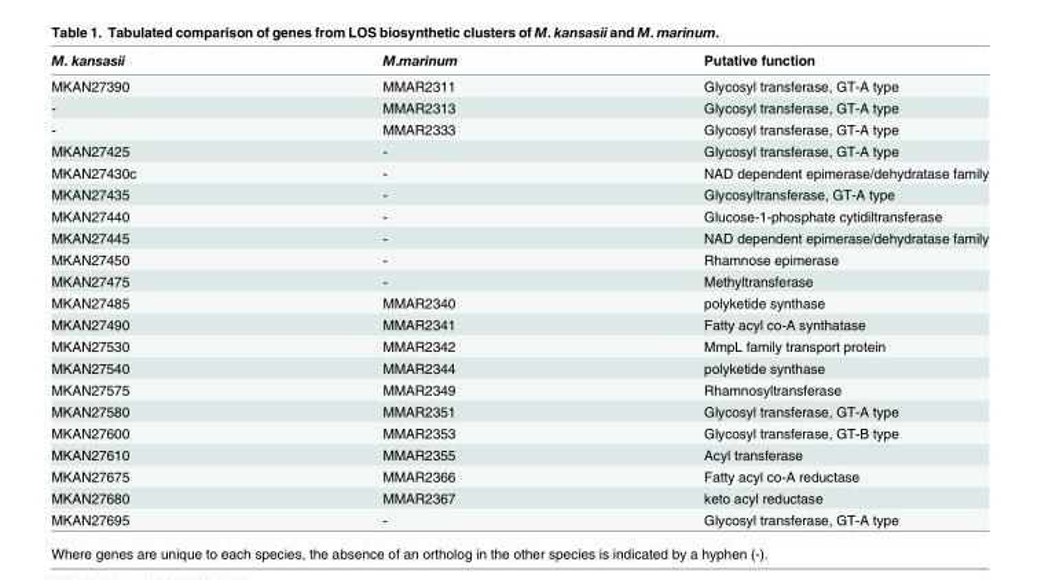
<table><thead><tr><td>M. kansasii</td><td>M.marinum</td><td>Putative function</td></tr></thead><tbody><tr><td>MKAN27390</td><td>MMAR2311</td><td>Glycosyl transferase, GT-A type</td></tr><tr><td>-</td><td>MMAR2313</td><td>Glycosyl transferase, GT-A type</td></tr><tr><td>-</td><td>MMAR2333</td><td>Glycosyl transferase, GT-A type</td></tr><tr><td>MKAN27425</td><td>-</td><td>Glycosyl transferase, GT-A type</td></tr><tr><td>MKAN27430c</td><td>-</td><td>NAD dependent epimerase/dehydratase family</td></tr><tr><td>MKAN27435</td><td>-</td><td>Glycosyltransferase, GT-A type</td></tr><tr><td>MKAN27440</td><td>-</td><td>Glucose-1-phosphate cytidiltransferase</td></tr><tr><td>MKAN27445</td><td>-</td><td>NAD dependent epimerase/dehydratase family</td></tr><tr><td>MKAN27450</td><td>-</td><td>Rhamnose epimerase</td></tr><tr><td>MKAN27475</td><td>-</td><td>Methyltransferase</td></tr><tr><td>MKAN27485</td><td>MMAR2340</td><td>polyketide synthase</td></tr><tr><td>MKAN27490</td><td>MMAR2341</td><td>Fatty acyl co-A synthatase</td></tr><tr><td>MKAN27530</td><td>MMAR2342</td><td>MmpL family transport protein</td></tr><tr><td>MKAN27540</td><td>MMAR2344</td><td>polyketide synthase</td></tr><tr><td>MKAN27575</td><td>MMAR2349</td><td>Rhamnosyltransferase</td></tr><tr><td>MKAN27580</td><td>MMAR2351</td><td>Glycosyl transferase, GT-A type</td></tr><tr><td>MKAN27600</td><td>MMAR2353</td><td>Glycosyl transferase, GT-B type</td></tr><tr><td>MKAN27610</td><td>MMAR2355</td><td>Acyl transferase</td></tr><tr><td>MKAN27675</td><td>MMAR2366</td><td>Fatty acyl co-A reductase</td></tr><tr><td>MKAN27680</td><td>MMAR2367</td><td>keto acyl reductase</td></tr><tr><td>MKAN27695</td><td>-</td><td>Glycosyl transferase, GT-A type</td></tr></tbody></table>